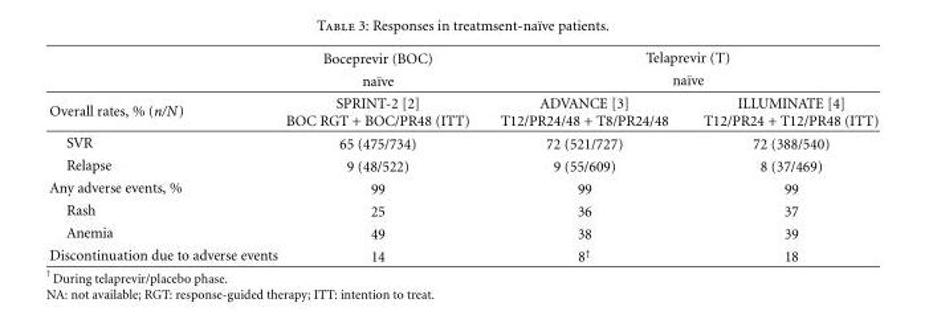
<table><thead><tr><td rowspan="3">Overall rates, % (n/N)</td><td rowspan="3">Boceprevir (BOC) na¨ıve SPRINT-2 [2] BOC RGT + BOC/PR48 (ITT)</td><td rowspan="2" colspan="2">Telaprevir (T) na¨ıve</td></tr><tr></tr><tr><td>ADVANCE [3] T12/PR24/48 + T8/PR24/48</td><td>ILLUMINATE [4] T12/PR24 + T12/PR48 (ITT)</td></tr></thead><tbody><tr><td>SVR</td><td>65 (475/734)</td><td>72 (521/727)</td><td>72 (388/540)</td></tr><tr><td>Relapse</td><td>9 (48/522)</td><td>9 (55/609)</td><td>8 (37/469)</td></tr><tr><td>Any adverse events, %</td><td>99</td><td>99</td><td>99</td></tr><tr><td>Rash</td><td>25</td><td>36</td><td>37</td></tr><tr><td>Anemia</td><td>49</td><td>38</td><td>39</td></tr><tr><td>Discontinuation due to adverse events</td><td>14</td><td>8<sup>†</sup></td><td>18</td></tr></tbody></table>